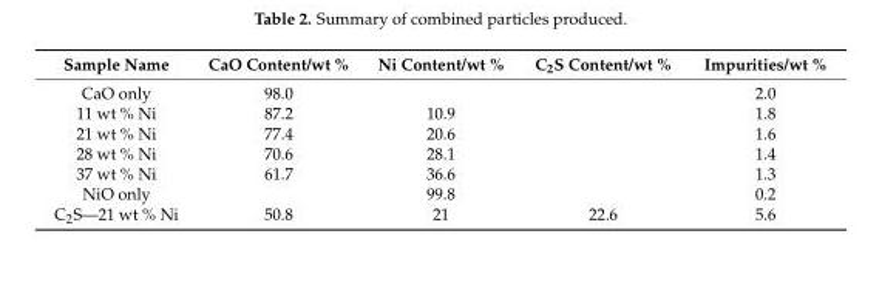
<table><thead><tr><td>Sample Name</td><td>CaO Content/wt %</td><td>Ni Content/wt %</td><td>C<sub>2</sub>S Content/wt %</td><td>Impurities/wt %</td></tr></thead><tbody><tr><td>CaO only</td><td>98.0</td><td></td><td></td><td>2.0</td></tr><tr><td>11 wt % Ni</td><td>87.2</td><td>10.9</td><td></td><td>1.8</td></tr><tr><td>21 wt % Ni</td><td>77.4</td><td>20.6</td><td></td><td>1.6</td></tr><tr><td>28 wt % Ni</td><td>70.6</td><td>28.1</td><td></td><td>1.4</td></tr><tr><td>37 wt % Ni</td><td>61.7</td><td>36.6</td><td></td><td>1.3</td></tr><tr><td>NiO only</td><td></td><td>99.8</td><td></td><td>0.2</td></tr><tr><td>C<sub>2</sub>S—21 wt % Ni</td><td>50.8</td><td>21</td><td>22.6</td><td>5.6</td></tr></tbody></table>